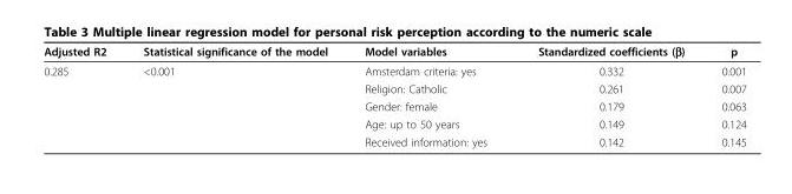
<table><thead><tr><td>Adjusted R2</td><td>Statistical significance of the model</td><td>Model variables</td><td>Standardized coefficients (β)</td><td>p</td></tr></thead><tbody><tr><td rowspan="5">0.285</td><td>&lt;0.001</td><td>Amsterdam criteria: yes</td><td>0.332</td><td>0.001</td></tr><tr><td></td><td>Religion: Catholic</td><td>0.261</td><td>0.007</td></tr><tr><td></td><td>Gender: female</td><td>0.179</td><td>0.063</td></tr><tr><td></td><td>Age: up to 50 years</td><td>0.149</td><td>0.124</td></tr><tr><td></td><td>Received information: yes</td><td>0.142</td><td>0.145</td></tr></tbody></table>